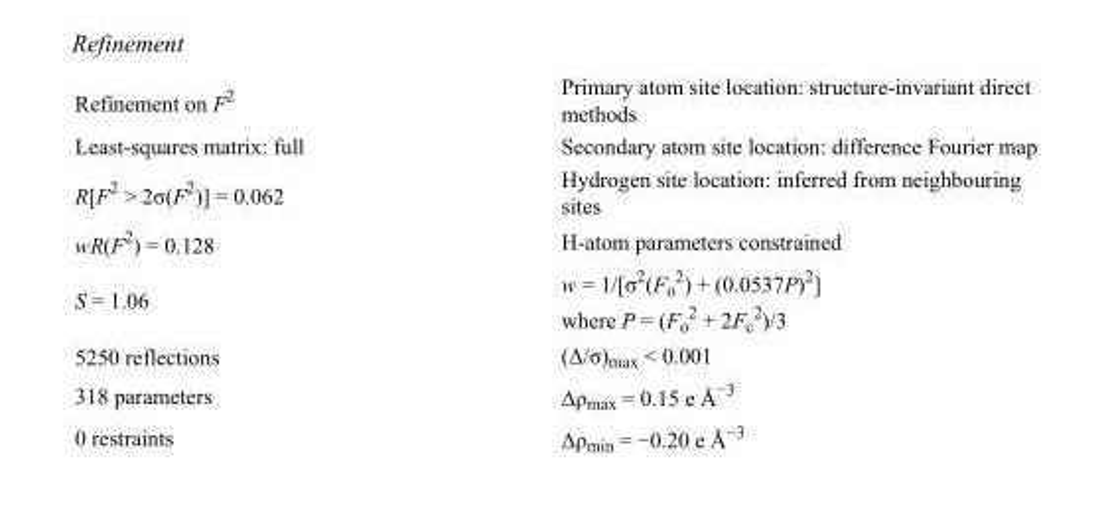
<table><tbody><tr><td>Refinement on F<sup>2</sup></td><td>Primary atom site location: structure-invariant direct methods</td></tr><tr><td>Least-squares matrix: full</td><td>Secondary atom site location: difference Fourier map</td></tr><tr><td>R[F<sup>2</sup> &gt; 2σ(F<sup>2</sup>)] = 0.062</td><td>Hydrogen site location: inferred from neighbouring sites</td></tr><tr><td>wR(F<sup>2</sup>) = 0.128</td><td>H-atom parameters constrained</td></tr><tr><td>S = 1.06</td><td>w = 1/[σ<sup>2</sup>(F<sub>o</sub> <sup>2</sup>) + (0.0537P)<sup>2</sup>] where P = (F<sub>o</sub> <sup>2</sup> + 2F<sub>c</sub> <sup>2</sup>)/3</td></tr><tr><td>5250 reflections</td><td>(Δ/σ)<sub>max</sub> &lt; 0.001</td></tr><tr><td>318 parameters</td><td>Δρ<sub>max</sub> = 0.15 e Å<sup>−3</sup></td></tr><tr><td>0 restraints</td><td>Δρ<sub>min</sub> = −0.20 e Å<sup>−3</sup></td></tr></tbody></table>